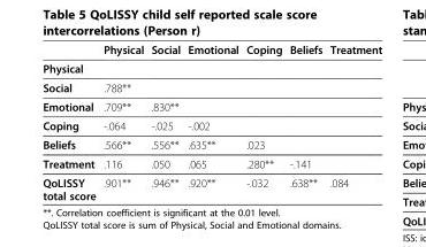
<table><thead><tr><td></td><td>Physical</td><td>Social</td><td>Emotional</td><td>Coping</td><td>Beliefs</td><td>Treatment</td></tr></thead><tbody><tr><td colspan="7">Physical</td></tr><tr><td>Social</td><td>.788**</td><td></td><td></td><td></td><td></td><td></td></tr><tr><td>Emotional</td><td>.709**</td><td>.830**</td><td></td><td></td><td></td><td></td></tr><tr><td>Coping</td><td>-.064</td><td>-.025</td><td>-.002</td><td></td><td></td><td></td></tr><tr><td>Beliefs</td><td>.566**</td><td>.556**</td><td>.635**</td><td>.023</td><td></td><td></td></tr><tr><td>Treatment</td><td>.116</td><td>.050</td><td>.065</td><td>.280**</td><td>-.141</td><td></td></tr><tr><td>QoLISSY total score</td><td>.901**</td><td>.946**</td><td>.920**</td><td>-.032</td><td>.638**</td><td>.084</td></tr></tbody></table>